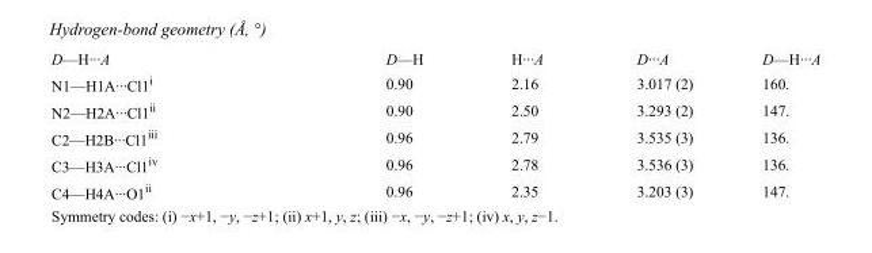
<table><tbody><tr><td>D—H···A</td><td>D—H</td><td>H···A</td><td>D···A</td><td>D—H···A</td></tr><tr><td>N1—H1A···Cl1<sup>i</sup></td><td>0.90</td><td>2.16</td><td>3.017 (2)</td><td>160.</td></tr><tr><td>N2—H2A···Cl1<sup>ii</sup></td><td>0.90</td><td>2.50</td><td>3.293 (2)</td><td>147.</td></tr><tr><td>C2—H2B···Cl1<sup>iii</sup></td><td>0.96</td><td>2.79</td><td>3.535 (3)</td><td>136.</td></tr><tr><td>C3—H3A···Cl1<sup>iv</sup></td><td>0.96</td><td>2.78</td><td>3.536 (3)</td><td>136.</td></tr><tr><td>C4—H4A···O1<sup>ii</sup></td><td>0.96</td><td>2.35</td><td>3.203 (3)</td><td>147.</td></tr></tbody></table>